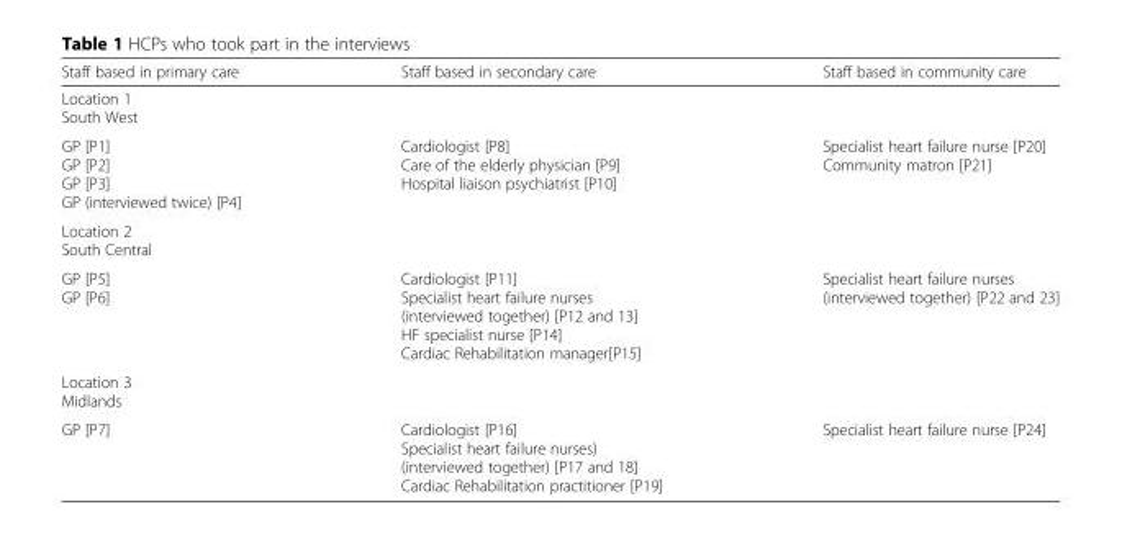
<table><thead><tr><td>Staff based in primary care</td><td>Staff based in secondary care</td><td>Staff based in community care</td></tr></thead><tbody><tr><td colspan="3">Location 1 South West</td></tr><tr><td>GP [P1] GP [P2] GP [P3] GP (interviewed twice) [P4]</td><td>Cardiologist [P8] Care of the elderly physician [P9] Hospital liaison psychiatrist [P10]</td><td>Specialist heart failure nurse [P20] Community matron [P21]</td></tr><tr><td colspan="3">Location 2 South Central</td></tr><tr><td>GP [P5] GP [P6]</td><td>Cardiologist [P11] Specialist heart failure nurses (interviewed together) [P12 and 13] HF specialist nurse [P14] Cardiac Rehabilitation manager[P15]</td><td>Specialist heart failure nurses (interviewed together) [P22 and 23]</td></tr><tr><td colspan="3">Location 3 Midlands</td></tr><tr><td>GP [P7]</td><td>Cardiologist [P16] Specialist heart failure nurses) (interviewed together) [P17 and 18] Cardiac Rehabilitation practitioner [P19]</td><td>Specialist heart failure nurse [P24]</td></tr></tbody></table>